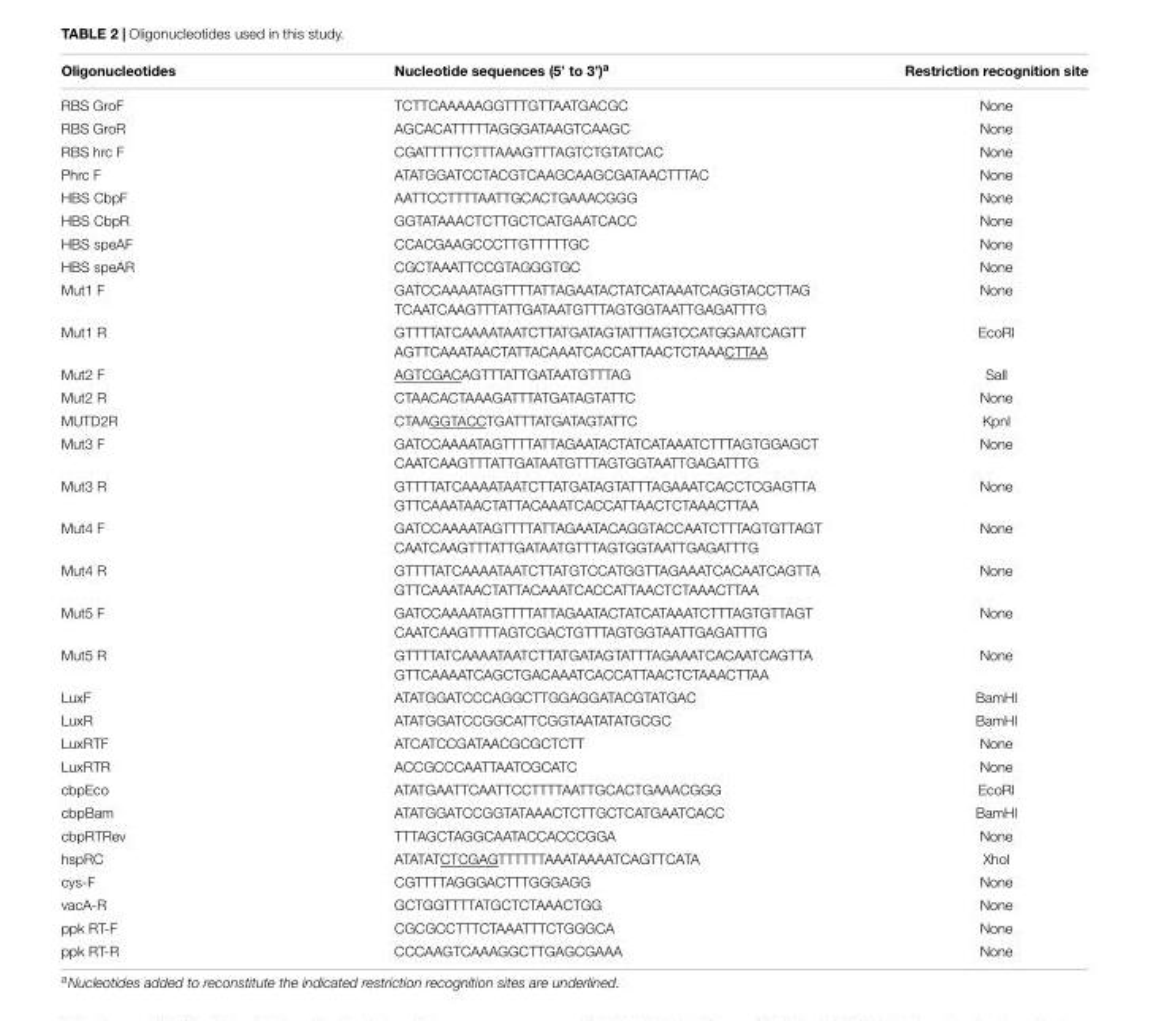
<table><thead><tr><td>Oligonucleotides</td><td>Nucleotide sequences (5’ to 3’)<sup>a</sup></td><td>Restriction recognition site</td></tr></thead><tbody><tr><td>RBS GroF</td><td>TCTTCAAAAAGGTTTGTTAATGACGC</td><td>None</td></tr><tr><td>RBS GroR</td><td>AGCACATTTTTAGGGATAAGTCAAGC</td><td>None</td></tr><tr><td>RBS hrc F</td><td>CGATTTTTCTTTAAAGTTTAGTCTGTATCAC</td><td>None</td></tr><tr><td>Phrc F</td><td>ATATGGATCCTACGTCAAGCAAGCGATAACTTTAC</td><td>None</td></tr><tr><td>HBS CbpF</td><td>AATTCCTTTTAATTGCACTGAAACGGG</td><td>None</td></tr><tr><td>HBS CbpR</td><td>GGTATAAACTCTTGCTCATGAATCACC</td><td>None</td></tr><tr><td>HBS speAF</td><td>CCACGAAGCCCTTGTTTTTGC</td><td>None</td></tr><tr><td>HBS speAR</td><td>CGCTAAATTCCGTAGGGTGC</td><td>None</td></tr><tr><td>Mut1 F</td><td>GATCCAAAATAGTTTTATTAGAATACTATCATAAATCAGGTACCTTAG TCAATCAAGTTTATTGATAATGTTTAGTGGTAATTGAGATTTG</td><td>None</td></tr><tr><td>Mut1 R</td><td>GTTTTATCAAAATAATCTTATGATAGTATTTAGTCCATGGAATCAGTT AGTTCAAATAACTATTACAAATCACCATTAACTCTAAACTTAA</td><td>EcoRI</td></tr><tr><td>Mut2 F</td><td>AGTCGACAGTTTATTGATAATGTTTAG</td><td>SalI</td></tr><tr><td>Mut2 R</td><td>CTAACACTAAAGATTTATGATAGTATTC</td><td>None</td></tr><tr><td>MUTD2R</td><td>CTAAGGTACCTGATTTATGATAGTATTC</td><td>KpnI</td></tr><tr><td>Mut3 F</td><td>GATCCAAAATAGTTTTATTAGAATACTATCATAAATCTTTAGTGGAGCT CAATCAAGTTTATTGATAATGTTTAGTGGTAATTGAGATTTG</td><td>None</td></tr><tr><td>Mut3 R</td><td>GTTTTATCAAAATAATCTTATGATAGTATTTAGAAATCACCTCGAGTTA GTTCAAATAACTATTACAAATCACCATTAACTCTAAACTTAA</td><td>None</td></tr><tr><td>Mut4 F</td><td>GATCCAAAATAGTTTTATTAGAATACAGGTACCAATCTTTAGTGTTAGT CAATCAAGTTTATTGATAATGTTTAGTGGTAATTGAGATTTG</td><td>None</td></tr><tr><td>Mut4 R</td><td>GTTTTATCAAAATAATCTTATGTCCATGGTTAGAAATCACAATCAGTTA GTTCAAATAACTATTACAAATCACCATTAACTCTAAACTTAA</td><td>None</td></tr><tr><td>Mut5 F</td><td>GATCCAAAATAGTTTTATTAGAATACTATCATAAATCTTTAGTGTTAGT CAATCAAGTTTTAGTCGACTGTTTAGTGGTAATTGAGATTTG</td><td>None</td></tr><tr><td>Mut5 R</td><td>GTTTTATCAAAATAATCTTATGATAGTATTTAGAAATCACAATCAGTTA GTTCAAAATCAGCTGACAAATCACCATTAACTCTAAACTTAA</td><td>None</td></tr><tr><td>LuxF</td><td>ATATGGATCCCAGGCTTGGAGGATACGTATGAC</td><td>BamHI</td></tr><tr><td>LuxR</td><td>ATATGGATCCGGCATTCGGTAATATATGCGC</td><td>BamHI</td></tr><tr><td>LuxRTF</td><td>ATCATCCGATAACGCGCTCTT</td><td>None</td></tr><tr><td>LuxRTR</td><td>ACCGCCCAATTAATCGCATC</td><td>None</td></tr><tr><td>cbpEco</td><td>ATATGAATTCAATTCCTTTTAATTGCACTGAAACGGG</td><td>EcoRI</td></tr><tr><td>cbpBam</td><td>ATATGGATCCGGTATAAACTCTTGCTCATGAATCACC</td><td>BamHI</td></tr><tr><td>cbpRTRev</td><td>TTTAGCTAGGCAATACCACCCGGA</td><td>None</td></tr><tr><td>hspRC</td><td>ATATATCTCGAGTTTTTTAAATAAAATCAGTTCATA</td><td>XhoI</td></tr><tr><td>cys-F</td><td>CGTTTTAGGGACTTTGGGAGG</td><td>None</td></tr><tr><td>vacA-R</td><td>GCTGGTTTTATGCTCTAAACTGG</td><td>None</td></tr><tr><td>ppk RT-F</td><td>CGCGCCTTTCTAAATTTCTGGGCA</td><td>None</td></tr><tr><td>ppk RT-R</td><td>CCCAAGTCAAAGGCTTGAGCGAAA</td><td>None</td></tr></tbody></table>